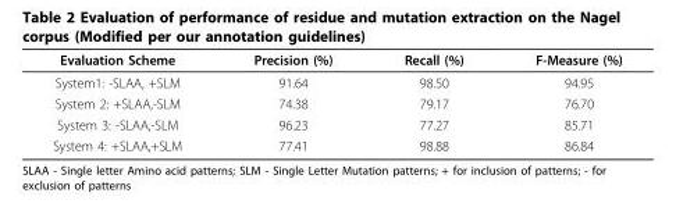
<table><thead><tr><td>Evaluation Scheme</td><td>Precision (%)</td><td>Recall (%)</td><td>F-Measure (%)</td></tr></thead><tbody><tr><td>System1: -SLAA, +SLM</td><td>91.64</td><td>98.50</td><td>94.95</td></tr><tr><td>System 2: +SLAA,-SLM</td><td>74.38</td><td>79.17</td><td>76.70</td></tr><tr><td>System 3: -SLAA,-SLM</td><td>96.23</td><td>77.27</td><td>85.71</td></tr><tr><td>System 4: +SLAA,+SLM</td><td>77.41</td><td>98.88</td><td>86.84</td></tr></tbody></table>